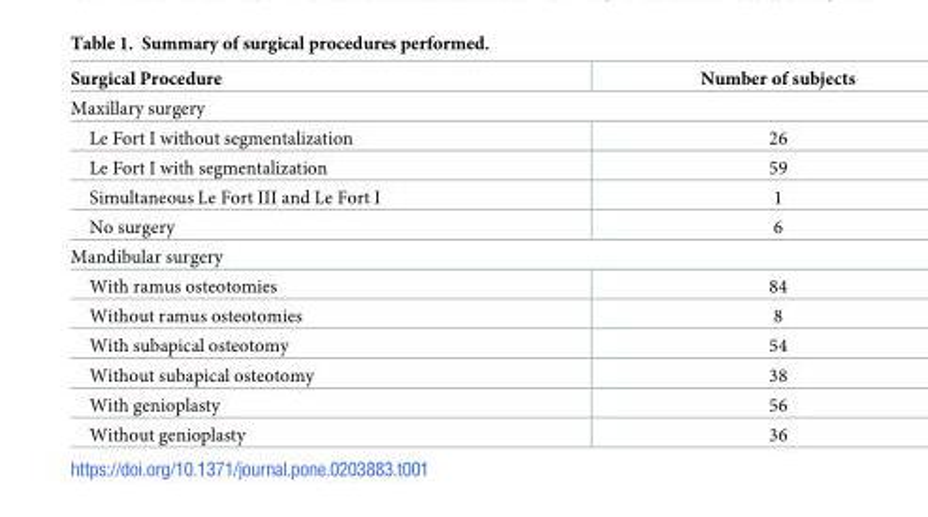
<table><thead><tr><td>Surgical Procedure</td><td>Number of subjects</td></tr></thead><tbody><tr><td colspan="2">Maxillary surgery</td></tr><tr><td>Le Fort I without segmentalization</td><td>26</td></tr><tr><td>Le Fort I with segmentalization</td><td>59</td></tr><tr><td>Simultaneous Le Fort III and Le Fort I</td><td>1</td></tr><tr><td>No surgery</td><td>6</td></tr><tr><td colspan="2">Mandibular surgery</td></tr><tr><td>With ramus osteotomies</td><td>84</td></tr><tr><td>Without ramus osteotomies</td><td>8</td></tr><tr><td>With subapical osteotomy</td><td>54</td></tr><tr><td>Without subapical osteotomy</td><td>38</td></tr><tr><td>With genioplasty</td><td>56</td></tr><tr><td>Without genioplasty</td><td>36</td></tr></tbody></table>